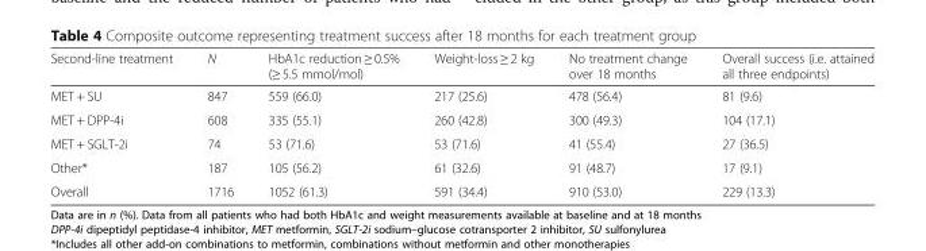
<table><thead><tr><td>Second-line treatment</td><td>N</td><td>HbA1c reduction ≥ 0.5% (≥ 5.5 mmol/mol)</td><td>Weight-loss ≥ 2 kg</td><td>No treatment change over 18 months</td><td>Overall success (i.e. attained all three endpoints)</td></tr></thead><tbody><tr><td>MET + SU</td><td>847</td><td>559 (66.0)</td><td>217 (25.6)</td><td>478 (56.4)</td><td>81 (9.6)</td></tr><tr><td>MET + DPP-4i</td><td>608</td><td>335 (55.1)</td><td>260 (42.8)</td><td>300 (49.3)</td><td>104 (17.1)</td></tr><tr><td>MET + SGLT-2i</td><td>74</td><td>53 (71.6)</td><td>53 (71.6)</td><td>41 (55.4)</td><td>27 (36.5)</td></tr><tr><td>Other*</td><td>187</td><td>105 (56.2)</td><td>61 (32.6)</td><td>91 (48.7)</td><td>17 (9.1)</td></tr><tr><td>Overall</td><td>1716</td><td>1052 (61.3)</td><td>591 (34.4)</td><td>910 (53.0)</td><td>229 (13.3)</td></tr></tbody></table>